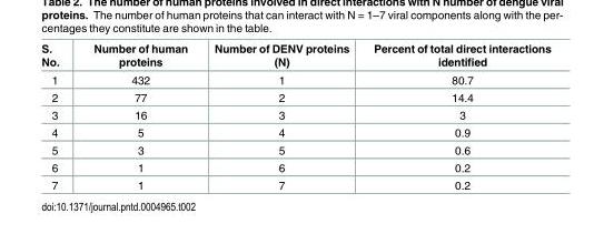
<table><thead><tr><td>S. No.</td><td>Number of human proteins</td><td>Number of DENV proteins (N)</td><td>Percent of total direct interactions identified</td></tr></thead><tbody><tr><td>1</td><td>432</td><td>1</td><td>80.7</td></tr><tr><td>2</td><td>77</td><td>2</td><td>14.4</td></tr><tr><td>3</td><td>16</td><td>3</td><td>3</td></tr><tr><td>4</td><td>5</td><td>4</td><td>0.9</td></tr><tr><td>5</td><td>3</td><td>5</td><td>0.6</td></tr><tr><td>6</td><td>1</td><td>6</td><td>0.2</td></tr><tr><td>7</td><td>1</td><td>7</td><td>0.2</td></tr></tbody></table>